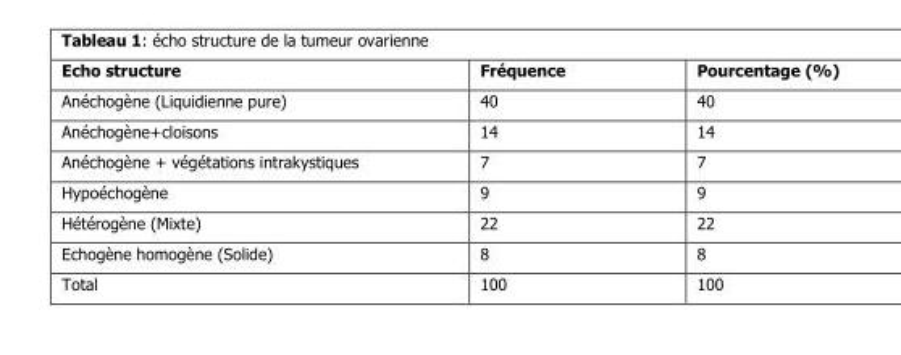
<table><thead><tr><td>Echo structure</td><td>Fréquence</td><td>Pourcentage (%)</td></tr></thead><tbody><tr><td>Anéchogène (Liquidienne pure)</td><td>40</td><td>40</td></tr><tr><td>Anéchogène+cloisons</td><td>14</td><td>14</td></tr><tr><td>Anéchogène + végétations intrakystiques</td><td>7</td><td>7</td></tr><tr><td>Hypoéchogène</td><td>9</td><td>9</td></tr><tr><td>Hétérogène (Mixte)</td><td>22</td><td>22</td></tr><tr><td>Echogène homogène (Solide)</td><td>8</td><td>8</td></tr><tr><td>Total</td><td>100</td><td>100</td></tr></tbody></table>